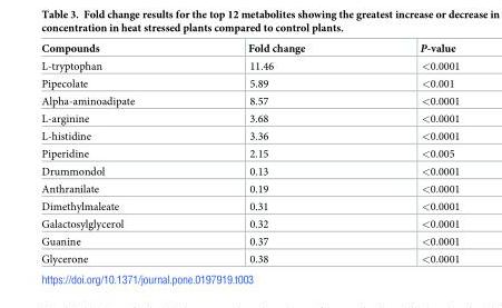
<table><thead><tr><td>Compounds</td><td>Fold change</td><td>P-value</td></tr></thead><tbody><tr><td>L-tryptophan</td><td>11.46</td><td>&lt;0.0001</td></tr><tr><td>Pipecolate</td><td>5.89</td><td>&lt;0.001</td></tr><tr><td>Alpha-aminoadipate</td><td>8.57</td><td>&lt;0.0001</td></tr><tr><td>L-arginine</td><td>3.68</td><td>&lt;0.0001</td></tr><tr><td>L-histidine</td><td>3.36</td><td>&lt;0.0001</td></tr><tr><td>Piperidine</td><td>2.15</td><td>&lt;0.005</td></tr><tr><td>Drummondol</td><td>0.13</td><td>&lt;0.0001</td></tr><tr><td>Anthranilate</td><td>0.19</td><td>&lt;0.0001</td></tr><tr><td>Dimethylmaleate</td><td>0.31</td><td>&lt;0.0001</td></tr><tr><td>Galactosylglycerol</td><td>0.32</td><td>&lt;0.0001</td></tr><tr><td>Guanine</td><td>0.37</td><td>&lt;0.0001</td></tr><tr><td>Glycerone</td><td>0.38</td><td>&lt;0.0001</td></tr></tbody></table>